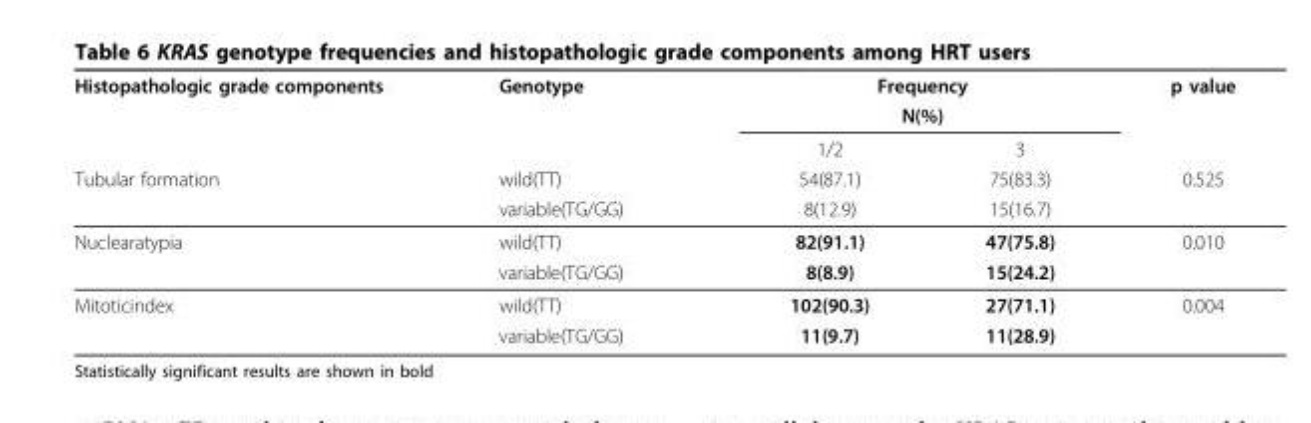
<table><thead><tr><td rowspan="5">Histopathologic grade components Tubular formation</td><td rowspan="5">Genotype wild(TT) variable(TG/GG)</td><td rowspan="2" colspan="2">Frequency N(%)</td><td rowspan="5">p value 0.525</td></tr><tr></tr><tr><td rowspan="3">1/2 54(87.1) 8(12.9)</td><td rowspan="3">3 75(83.3) 15(16.7)</td></tr><tr></tr><tr></tr></thead><tbody><tr><td rowspan="2">Nuclearatypia</td><td>wild(TT)</td><td>82(91.1)</td><td>47(75.8)</td><td>0.010</td></tr><tr><td>variable(TG/GG)</td><td>8(8.9)</td><td>15(24.2)</td><td></td></tr><tr><td rowspan="2">Mitoticindex</td><td>wild(TT)</td><td>102(90.3)</td><td>27(71.1)</td><td>0.004</td></tr><tr><td>variable(TG/GG)</td><td>11(9.7)</td><td>11(28.9)</td><td></td></tr></tbody></table>